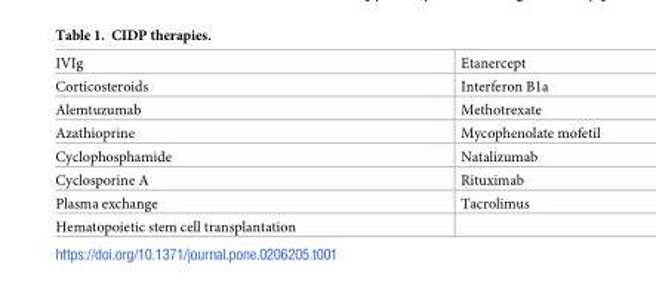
<table><tbody><tr><td>IVIg</td><td>Etanercept</td></tr><tr><td>Corticosteroids</td><td>Interferon B1a</td></tr><tr><td>Alemtuzumab</td><td>Methotrexate</td></tr><tr><td>Azathioprine</td><td>Mycophenolate mofetil</td></tr><tr><td>Cyclophosphamide</td><td>Natalizumab</td></tr><tr><td>Cyclosporine A</td><td>Rituximab</td></tr><tr><td>Plasma exchange</td><td>Tacrolimus</td></tr><tr><td>Hematopoietic stem cell transplantation</td><td></td></tr></tbody></table>